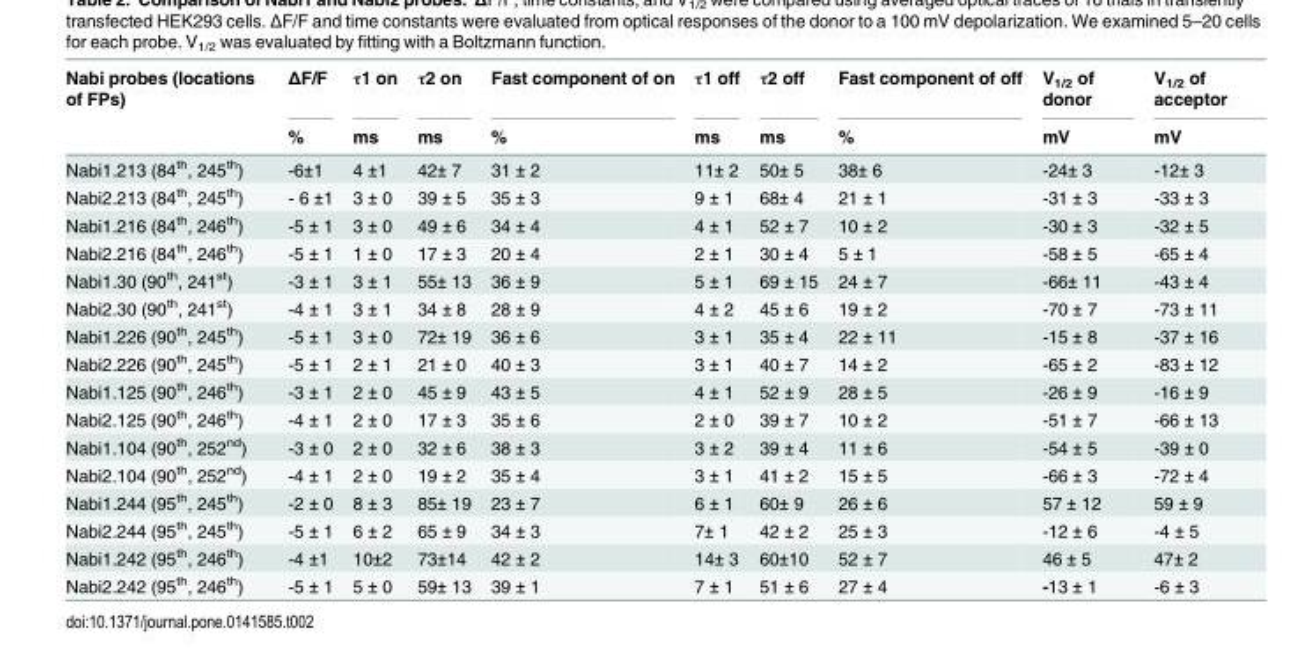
<table><thead><tr><td rowspan="2">Nabi probes (locations of FPs)</td><td rowspan="2">ΔF/F %</td><td rowspan="2">τ1 on ms</td><td rowspan="2">τ2 on ms</td><td rowspan="2">Fast component of on %</td><td rowspan="2">τ1 off ms</td><td rowspan="2">τ2 off ms</td><td rowspan="2">Fast component of off %</td><td rowspan="2">V<sub>1/2</sub> of donor mV</td><td rowspan="2">V<sub>1/2</sub> of acceptor mV</td></tr><tr></tr></thead><tbody><tr><td>Nabi1.213 (84<sup>th</sup>, 245<sup>th</sup>)</td><td>-6±1</td><td>4 ±1</td><td>42± 7</td><td>31 ± 2</td><td>11± 2</td><td>50± 5</td><td>38± 6</td><td>-24± 3</td><td>-12± 3</td></tr><tr><td>Nabi2.213 (84<sup>th</sup>, 245<sup>th</sup>)</td><td>- 6 ±1</td><td>3 ± 0</td><td>39 ± 5</td><td>35 ± 3</td><td>9 ± 1</td><td>68± 4</td><td>21 ± 1</td><td>-31 ± 3</td><td>-33 ± 3</td></tr><tr><td>Nabi1.216 (84<sup>th</sup>, 246<sup>th</sup>)</td><td>-5 ± 1</td><td>3 ± 0</td><td>49 ± 6</td><td>34 ± 4</td><td>4 ± 1</td><td>52 ± 7</td><td>10 ± 2</td><td>-30 ± 3</td><td>-32 ± 5</td></tr><tr><td>Nabi2.216 (84<sup>th</sup>, 246<sup>th</sup>)</td><td>-5 ± 1</td><td>1 ± 0</td><td>17 ± 3</td><td>20 ± 4</td><td>2 ± 1</td><td>30 ± 4</td><td>5 ± 1</td><td>-58 ± 5</td><td>-65 ± 4</td></tr><tr><td>Nabi1.30 (90<sup>th</sup>, 241<sup>st</sup>)</td><td>-3 ± 1</td><td>3 ± 1</td><td>55± 13</td><td>36 ± 9</td><td>5 ± 1</td><td>69 ± 15</td><td>24 ± 7</td><td>-66± 11</td><td>-43 ± 4</td></tr><tr><td>Nabi2.30 (90<sup>th</sup>, 241<sup>st</sup>)</td><td>-4 ± 1</td><td>3 ± 1</td><td>34 ± 8</td><td>28 ± 9</td><td>4 ± 2</td><td>45 ± 6</td><td>19 ± 2</td><td>-70 ± 7</td><td>-73 ± 11</td></tr><tr><td>Nabi1.226 (90<sup>th</sup>, 245<sup>th</sup>)</td><td>-5 ± 1</td><td>3 ± 0</td><td>72± 19</td><td>36 ± 6</td><td>3 ± 1</td><td>35 ± 4</td><td>22 ± 11</td><td>-15 ± 8</td><td>-37 ± 16</td></tr><tr><td>Nabi2.226 (90<sup>th</sup>, 245<sup>th</sup>)</td><td>-5 ± 1</td><td>2 ± 1</td><td>21 ± 0</td><td>40 ± 3</td><td>3 ± 1</td><td>40 ± 7</td><td>14 ± 2</td><td>-65 ± 2</td><td>-83 ± 12</td></tr><tr><td>Nabi1.125 (90<sup>th</sup>, 246<sup>th</sup>)</td><td>-3 ± 1</td><td>2 ± 0</td><td>45 ± 9</td><td>43 ± 5</td><td>4 ± 1</td><td>52 ± 9</td><td>28 ± 5</td><td>-26 ± 9</td><td>-16 ± 9</td></tr><tr><td>Nabi2.125 (90<sup>th</sup>, 246<sup>th</sup>)</td><td>-4 ± 1</td><td>2 ± 0</td><td>17 ± 3</td><td>35 ± 6</td><td>2 ± 0</td><td>39 ± 7</td><td>10 ± 2</td><td>-51 ± 7</td><td>-66 ± 13</td></tr><tr><td>Nabi1.104 (90<sup>th</sup>, 252<sup>nd</sup>)</td><td>-3 ± 0</td><td>2 ± 0</td><td>32 ± 6</td><td>38 ± 3</td><td>3 ± 2</td><td>39 ± 4</td><td>11 ± 6</td><td>-54 ± 5</td><td>-39 ± 0</td></tr><tr><td>Nabi2.104 (90<sup>th</sup>, 252<sup>nd</sup>)</td><td>-4 ± 1</td><td>2 ± 0</td><td>19 ± 2</td><td>35 ± 4</td><td>3 ± 1</td><td>41 ± 2</td><td>15 ± 5</td><td>-66 ± 3</td><td>-72 ± 4</td></tr><tr><td>Nabi1.244 (95<sup>th</sup>, 245<sup>th</sup>)</td><td>-2 ± 0</td><td>8 ± 3</td><td>85± 19</td><td>23 ± 7</td><td>6 ± 1</td><td>60± 9</td><td>26 ± 6</td><td>57 ± 12</td><td>59 ± 9</td></tr><tr><td>Nabi2.244 (95<sup>th</sup>, 245<sup>th</sup>)</td><td>-5 ± 1</td><td>6 ± 2</td><td>65 ± 9</td><td>34 ± 3</td><td>7± 1</td><td>42 ± 2</td><td>25 ± 3</td><td>-12 ± 6</td><td>-4 ± 5</td></tr><tr><td>Nabi1.242 (95<sup>th</sup>, 246<sup>th</sup>)</td><td>-4 ±1</td><td>10±2</td><td>73±14</td><td>42 ± 2</td><td>14± 3</td><td>60±10</td><td>52 ± 7</td><td>46 ± 5</td><td>47± 2</td></tr><tr><td>Nabi2.242 (95<sup>th</sup>, 246<sup>th</sup>)</td><td>-5 ± 1</td><td>5 ± 0</td><td>59± 13</td><td>39 ± 1</td><td>7 ± 1</td><td>51 ± 6</td><td>27 ± 4</td><td>-13 ± 1</td><td>-6 ± 3</td></tr></tbody></table>